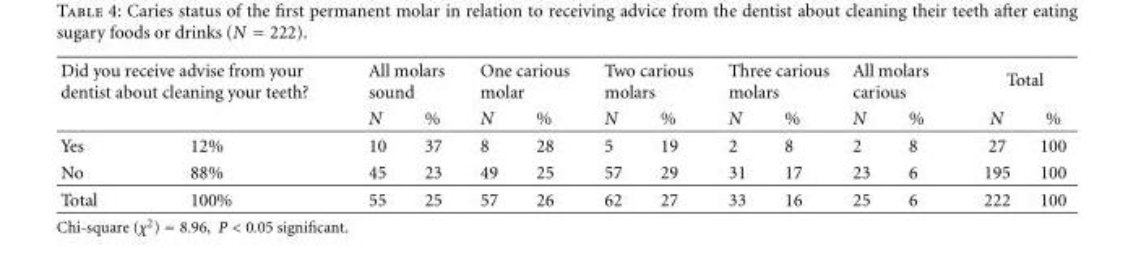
<table><thead><tr><td colspan="2">Did you receive advise from your dentist about cleaning your teeth?</td><td colspan="2">All molars sound</td><td colspan="2">One carious molar</td><td colspan="2">Two carious molars</td><td colspan="2">Three carious molars</td><td colspan="2">All molars carious</td><td colspan="2">Total</td></tr><tr><td></td><td></td><td>N</td><td>%</td><td>N</td><td>%</td><td>N</td><td>%</td><td>N</td><td>%</td><td>N</td><td>%</td><td>N</td><td>%</td></tr></thead><tbody><tr><td>Yes</td><td>12%</td><td>10</td><td>37</td><td>8</td><td>28</td><td>5</td><td>19</td><td>2</td><td>8</td><td>2</td><td>8</td><td>27</td><td>100</td></tr><tr><td>No</td><td>88%</td><td>45</td><td>23</td><td>49</td><td>25</td><td>57</td><td>29</td><td>31</td><td>17</td><td>23</td><td>6</td><td>195</td><td>100</td></tr><tr><td>Total</td><td>100%</td><td>55</td><td>25</td><td>57</td><td>26</td><td>62</td><td>27</td><td>33</td><td>16</td><td>25</td><td>6</td><td>222</td><td>100</td></tr></tbody></table>